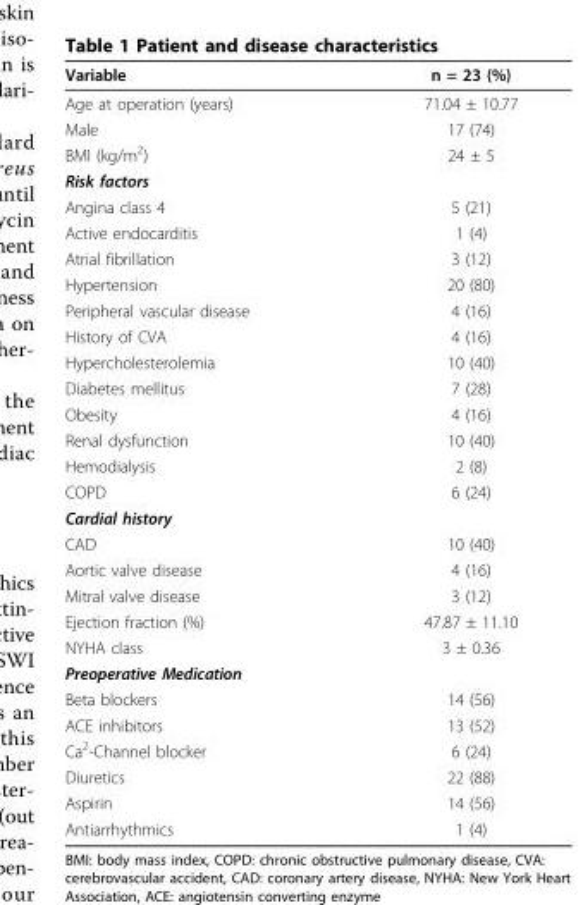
<table><thead><tr><td>Variable</td><td>n = 23 (%)</td></tr></thead><tbody><tr><td>Age at operation (years)</td><td>71.04 ± 10.77</td></tr><tr><td>Male</td><td>17 (74)</td></tr><tr><td>BMI (kg/m<sup>2</sup>)</td><td>24 ± 5</td></tr><tr><td colspan="2">Risk factors</td></tr><tr><td>Angina class 4</td><td>5 (21)</td></tr><tr><td>Active endocarditis</td><td>1 (4)</td></tr><tr><td>Atrial fibrillation</td><td>3 (12)</td></tr><tr><td>Hypertension</td><td>20 (80)</td></tr><tr><td>Peripheral vascular disease</td><td>4 (16)</td></tr><tr><td>History of CVA</td><td>4 (16)</td></tr><tr><td>Hypercholesterolemia</td><td>10 (40)</td></tr><tr><td>Diabetes mellitus</td><td>7 (28)</td></tr><tr><td>Obesity</td><td>4 (16)</td></tr><tr><td>Renal dysfunction</td><td>10 (40)</td></tr><tr><td>Hemodialysis</td><td>2 (8)</td></tr><tr><td>COPD</td><td>6 (24)</td></tr><tr><td colspan="2">Cardial history</td></tr><tr><td>CAD</td><td>10 (40)</td></tr><tr><td>Aortic valve disease</td><td>4 (16)</td></tr><tr><td>Mitral valve disease</td><td>3 (12)</td></tr><tr><td>Ejection fraction (%)</td><td>47.87 ± 11.10</td></tr><tr><td>NYHA class</td><td>3 ± 0.36</td></tr><tr><td colspan="2">Preoperative Medication</td></tr><tr><td>Beta blockers</td><td>14 (56)</td></tr><tr><td>ACE inhibitors</td><td>13 (52)</td></tr><tr><td>Ca<sup>2</sup>-Channel blocker</td><td>6 (24)</td></tr><tr><td>Diuretics</td><td>22 (88)</td></tr><tr><td>Aspirin</td><td>14 (56)</td></tr><tr><td>Antiarrhythmics</td><td>1 (4)</td></tr></tbody></table>